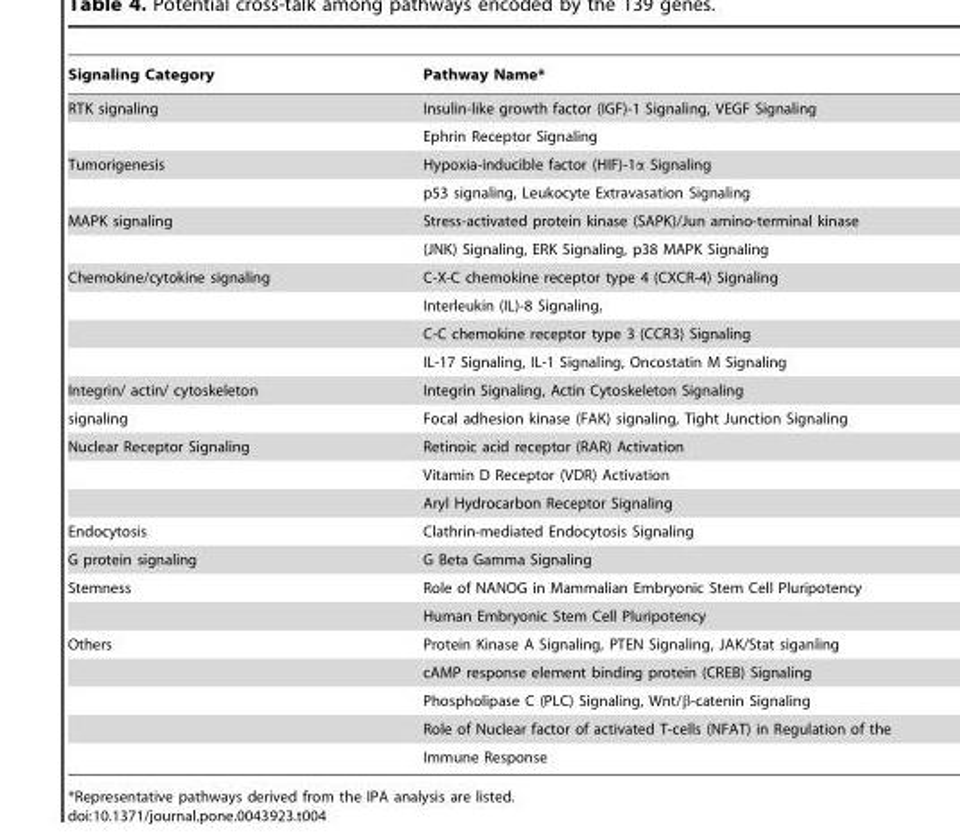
<table><thead><tr><td>Signaling Category</td><td>Pathway Name*</td></tr></thead><tbody><tr><td rowspan="2">RTK signaling</td><td>Insulin-like growth factor (IGF)-1 Signaling, VEGF Signaling</td></tr><tr><td>Ephrin Receptor Signaling</td></tr><tr><td rowspan="2">Tumorigenesis</td><td>Hypoxia-inducible factor (HIF)-1α Signaling</td></tr><tr><td>p53 signaling, Leukocyte Extravasation Signaling</td></tr><tr><td rowspan="2">MAPK signaling</td><td>Stress-activated protein kinase (SAPK)/Jun amino-terminal kinase</td></tr><tr><td>(JNK) Signaling, ERK Signaling, p38 MAPK Signaling</td></tr><tr><td rowspan="4">Chemokine/cytokine signaling</td><td>C-X-C chemokine receptor type 4 (CXCR-4) Signaling</td></tr><tr><td>Interleukin (IL)-8 Signaling,</td></tr><tr><td>C-C chemokine receptor type 3 (CCR3) Signaling</td></tr><tr><td>IL-17 Signaling, IL-1 Signaling, Oncostatin M Signaling</td></tr><tr><td>Integrin/ actin/ cytoskeleton</td><td>Integrin Signaling, Actin Cytoskeleton Signaling</td></tr><tr><td>signaling</td><td>Focal adhesion kinase (FAK) signaling, Tight Junction Signaling</td></tr><tr><td rowspan="3">Nuclear Receptor Signaling</td><td>Retinoic acid receptor (RAR) Activation</td></tr><tr><td>Vitamin D Receptor (VDR) Activation</td></tr><tr><td>Aryl Hydrocarbon Receptor Signaling</td></tr><tr><td>Endocytosis</td><td>Clathrin-mediated Endocytosis Signaling</td></tr><tr><td>G protein signaling</td><td>G Beta Gamma Signaling</td></tr><tr><td rowspan="2">Stemness</td><td>Role of NANOG in Mammalian Embryonic Stem Cell Pluripotency</td></tr><tr><td>Human Embryonic Stem Cell Pluripotency</td></tr><tr><td rowspan="5">Others</td><td>Protein Kinase A Signaling, PTEN Signaling, JAK/Stat siganling</td></tr><tr><td>cAMP response element binding protein (CREB) Signaling</td></tr><tr><td>Phospholipase C (PLC) Signaling, Wnt/β-catenin Signaling</td></tr><tr><td>Role of Nuclear factor of activated T-cells (NFAT) in Regulation of the</td></tr><tr><td>Immune Response</td></tr></tbody></table>